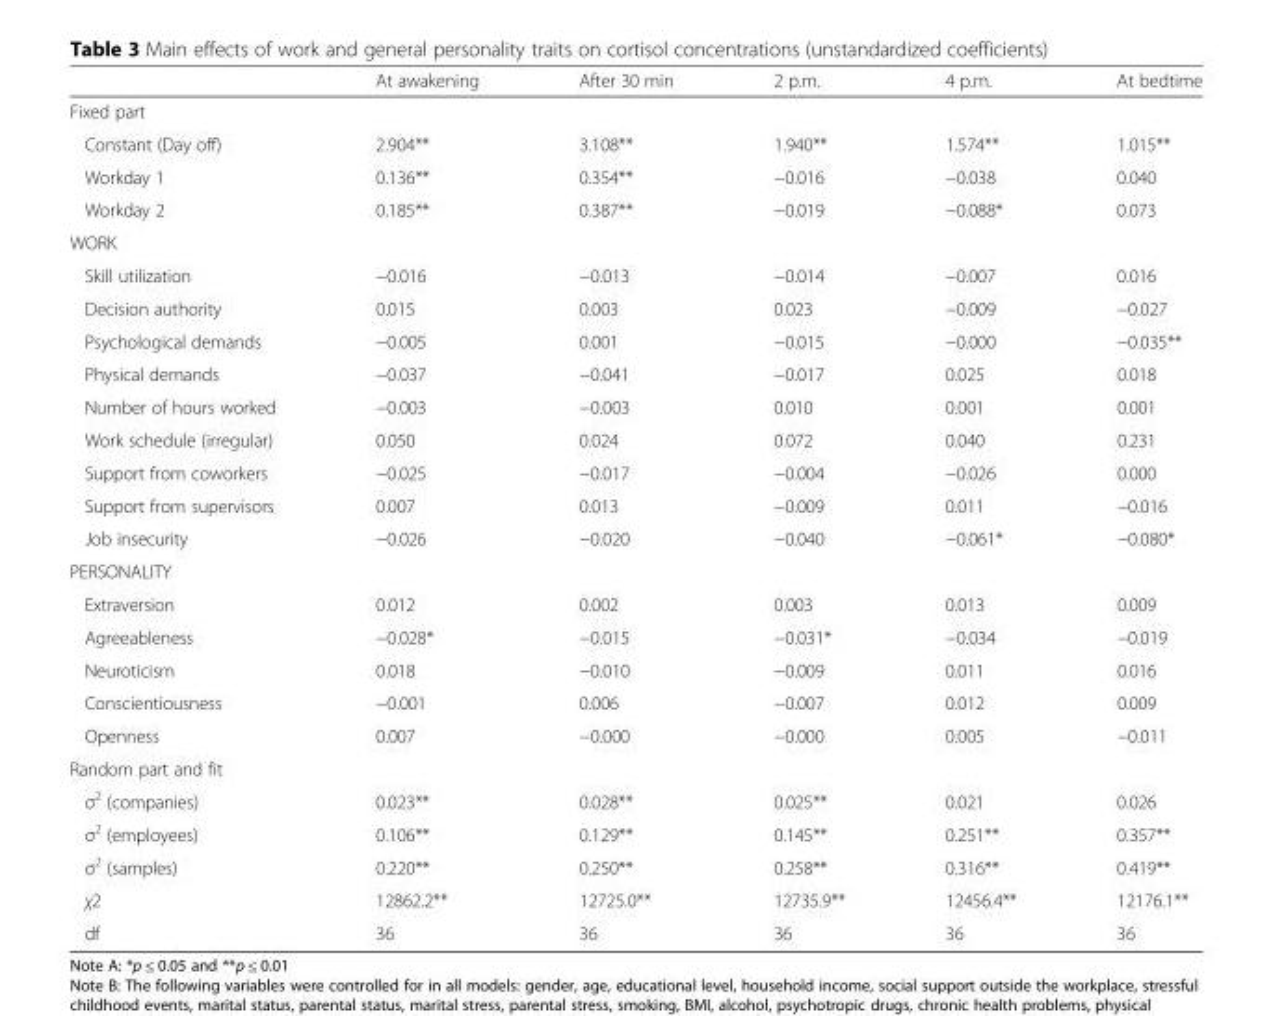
<table><thead><tr><td></td><td>At awakening</td><td>After 30 min</td><td>2 p.m.</td><td>4 p.m.</td><td>At bedtime</td></tr></thead><tbody><tr><td colspan="6">Fixed part</td></tr><tr><td>Constant (Day off)</td><td>2.904**</td><td>3.108**</td><td>1.940**</td><td>1.574**</td><td>1.015**</td></tr><tr><td>Workday 1</td><td>0.136**</td><td>0.354**</td><td>−0.016</td><td>−0.038</td><td>0.040</td></tr><tr><td>Workday 2</td><td>0.185**</td><td>0.387**</td><td>−0.019</td><td>−0.088*</td><td>0.073</td></tr><tr><td colspan="6">WORK</td></tr><tr><td>Skill utilization</td><td>−0.016</td><td>−0.013</td><td>−0.014</td><td>−0.007</td><td>0.016</td></tr><tr><td>Decision authority</td><td>0.015</td><td>0.003</td><td>0.023</td><td>−0.009</td><td>−0.027</td></tr><tr><td>Psychological demands</td><td>−0.005</td><td>0.001</td><td>−0.015</td><td>−0.000</td><td>−0.035**</td></tr><tr><td>Physical demands</td><td>−0.037</td><td>−0.041</td><td>−0.017</td><td>0.025</td><td>0.018</td></tr><tr><td>Number of hours worked</td><td>−0.003</td><td>−0.003</td><td>0.010</td><td>0.001</td><td>0.001</td></tr><tr><td>Work schedule (irregular)</td><td>0.050</td><td>0.024</td><td>0.072</td><td>0.040</td><td>0.231</td></tr><tr><td>Support from coworkers</td><td>−0.025</td><td>−0.017</td><td>−0.004</td><td>−0.026</td><td>0.000</td></tr><tr><td>Support from supervisors</td><td>0.007</td><td>0.013</td><td>−0.009</td><td>0.011</td><td>−0.016</td></tr><tr><td>Job insecurity</td><td>−0.026</td><td>−0.020</td><td>−0.040</td><td>−0.061*</td><td>−0.080*</td></tr><tr><td colspan="6">PERSONALITY</td></tr><tr><td>Extraversion</td><td>0.012</td><td>0.002</td><td>0.003</td><td>0.013</td><td>0.009</td></tr><tr><td>Agreeableness</td><td>−0.028*</td><td>−0.015</td><td>−0.031*</td><td>−0.034</td><td>−0.019</td></tr><tr><td>Neuroticism</td><td>0.018</td><td>−0.010</td><td>−0.009</td><td>0.011</td><td>0.016</td></tr><tr><td>Conscientiousness</td><td>−0.001</td><td>0.006</td><td>−0.007</td><td>0.012</td><td>0.009</td></tr><tr><td>Openness</td><td>0.007</td><td>−0.000</td><td>−0.000</td><td>0.005</td><td>−0.011</td></tr><tr><td colspan="6">Random part and fit</td></tr><tr><td>σ<sup>2</sup> (companies)</td><td>0.023**</td><td>0.028**</td><td>0.025**</td><td>0.021</td><td>0.026</td></tr><tr><td>σ<sup>2</sup> (employees)</td><td>0.106**</td><td>0.129**</td><td>0.145**</td><td>0.251**</td><td>0.357**</td></tr><tr><td>σ<sup>2</sup> (samples)</td><td>0.220**</td><td>0.250**</td><td>0.258**</td><td>0.316**</td><td>0.419**</td></tr><tr><td>χ2</td><td>12862.2**</td><td>12725.0**</td><td>12735.9**</td><td>12456.4**</td><td>12176.1**</td></tr><tr><td>df</td><td>36</td><td>36</td><td>36</td><td>36</td><td>36</td></tr></tbody></table>